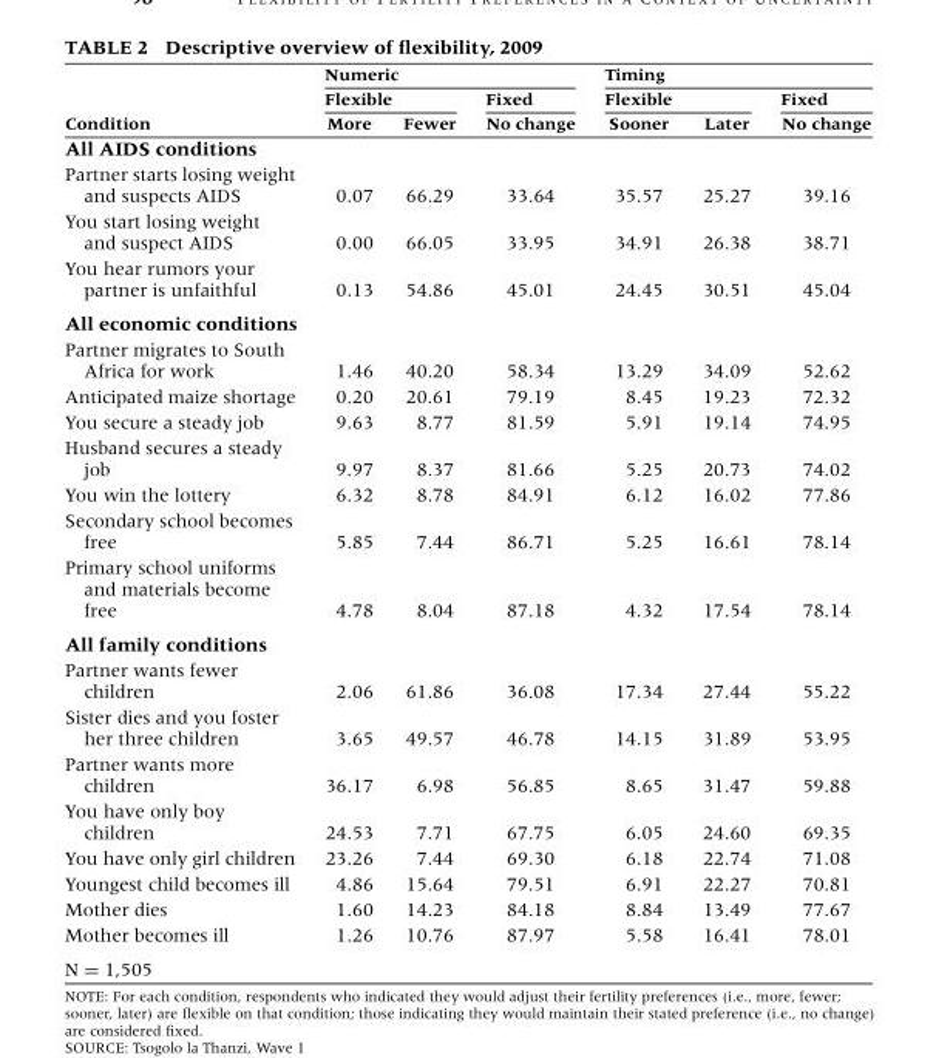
<table><thead><tr><td rowspan="3">Condition</td><td colspan="3">Numeric</td><td colspan="3">Timing</td></tr><tr><td colspan="2">Flexible</td><td rowspan="2">Fixed No change</td><td colspan="2">Flexible</td><td rowspan="2">Fixed No change</td></tr><tr><td>More</td><td>Fewer</td><td>Sooner</td><td>Later</td></tr></thead><tbody><tr><td colspan="7">All AIDS conditions</td></tr><tr><td>Partner starts losing weight and suspects AIDS</td><td>0.07</td><td>66.29</td><td>33.64</td><td>35.57</td><td>25.27</td><td>39.16</td></tr><tr><td>You start losing weight and suspect AIDS</td><td>0.00</td><td>66.05</td><td>33.95</td><td>34.91</td><td>26.38</td><td>38.71</td></tr><tr><td>You hear rumors your partner is unfaithful</td><td>0.13</td><td>54.86</td><td>45.01</td><td>24.45</td><td>30.51</td><td>45.04</td></tr><tr><td colspan="7">All economic conditions</td></tr><tr><td>Partner migrates to South Africa for work</td><td>1.46</td><td>40.20</td><td>58.34</td><td>13.29</td><td>34.09</td><td>52.62</td></tr><tr><td>Anticipated maize shortage</td><td>0.20</td><td>20.61</td><td>79.19</td><td>8.45</td><td>19.23</td><td>72.32</td></tr><tr><td>You secure a steady job</td><td>9.63</td><td>8.77</td><td>81.59</td><td>5.91</td><td>19.14</td><td>74.95</td></tr><tr><td>Husband secures a steady job</td><td>9.97</td><td>8.37</td><td>81.66</td><td>5.25</td><td>20.73</td><td>74.02</td></tr><tr><td>You win the lottery</td><td>6.32</td><td>8.78</td><td>84.91</td><td>6.12</td><td>16.02</td><td>77.86</td></tr><tr><td>Secondary school becomes free</td><td>5.85</td><td>7.44</td><td>86.71</td><td>5.25</td><td>16.61</td><td>78.14</td></tr><tr><td>Primary school uniforms and materials become free</td><td>4.78</td><td>8.04</td><td>87.18</td><td>4.32</td><td>17.54</td><td>78.14</td></tr><tr><td colspan="7">All family conditions</td></tr><tr><td>Partner wants fewer children</td><td>2.06</td><td>61.86</td><td>36.08</td><td>17.34</td><td>27.44</td><td>55.22</td></tr><tr><td>Sister dies and you foster her three children</td><td>3.65</td><td>49.57</td><td>46.78</td><td>14.15</td><td>31.89</td><td>53.95</td></tr><tr><td>Partner wants more children</td><td>36.17</td><td>6.98</td><td>56.85</td><td>8.65</td><td>31.47</td><td>59.88</td></tr><tr><td>You have only boy children</td><td>24.53</td><td>7.71</td><td>67.75</td><td>6.05</td><td>24.60</td><td>69.35</td></tr><tr><td>You have only girl children</td><td>23.26</td><td>7.44</td><td>69.30</td><td>6.18</td><td>22.74</td><td>71.08</td></tr><tr><td>Youngest child becomes ill</td><td>4.86</td><td>15.64</td><td>79.51</td><td>6.91</td><td>22.27</td><td>70.81</td></tr><tr><td>Mother dies</td><td>1.60</td><td>14.23</td><td>84.18</td><td>8.84</td><td>13.49</td><td>77.67</td></tr><tr><td>Mother becomes ill</td><td>1.26</td><td>10.76</td><td>87.97</td><td>5.58</td><td>16.41</td><td>78.01</td></tr><tr><td colspan="7">N = 1,505</td></tr></tbody></table>